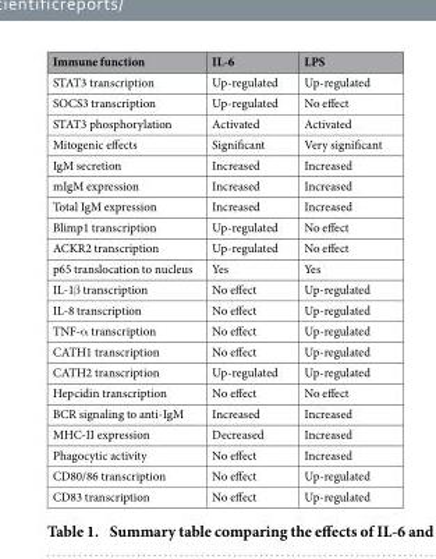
<table><thead><tr><td>Immune function</td><td>IL-6</td><td>LPS</td></tr></thead><tbody><tr><td>STAT3 transcription</td><td>Up-regulated</td><td>Up-regulated</td></tr><tr><td>SOCS3 transcription</td><td>Up-regulated</td><td>No effect</td></tr><tr><td>STAT3 phosphorylation</td><td>Activated</td><td>Activated</td></tr><tr><td>Mitogenic effects</td><td>Significant</td><td>Very significant</td></tr><tr><td>IgM secretion</td><td>Increased</td><td>Increased</td></tr><tr><td>mIgM expression</td><td>Increased</td><td>Increased</td></tr><tr><td>Total IgM expression</td><td>Increased</td><td>Increased</td></tr><tr><td>Blimp1 transcription</td><td>Up-regulated</td><td>No effect</td></tr><tr><td>ACKR2 transcription</td><td>Up-regulated</td><td>No effect</td></tr><tr><td>p65 translocation to nucleus</td><td>Yes</td><td>Yes</td></tr><tr><td>IL-1β transcription</td><td>No effect</td><td>Up-regulated</td></tr><tr><td>IL-8 transcription</td><td>No effect</td><td>Up-regulated</td></tr><tr><td>TNF-α transcription</td><td>No effect</td><td>Up-regulated</td></tr><tr><td>CATH1 transcription</td><td>No effect</td><td>Up-regulated</td></tr><tr><td>CATH2 transcription</td><td>Up-regulated</td><td>Up-regulated</td></tr><tr><td>Hepcidin transcription</td><td>No effect</td><td>No effect</td></tr><tr><td>BCR signaling to anti-IgM</td><td>Increased</td><td>Increased</td></tr><tr><td>MHC-II expression</td><td>Decreased</td><td>Increased</td></tr><tr><td>Phagocytic activity</td><td>No effect</td><td>Increased</td></tr><tr><td>CD80/86 transcription</td><td>No effect</td><td>Up-regulated</td></tr><tr><td>CD83 transcription</td><td>No effect</td><td>Up-regulated</td></tr></tbody></table>